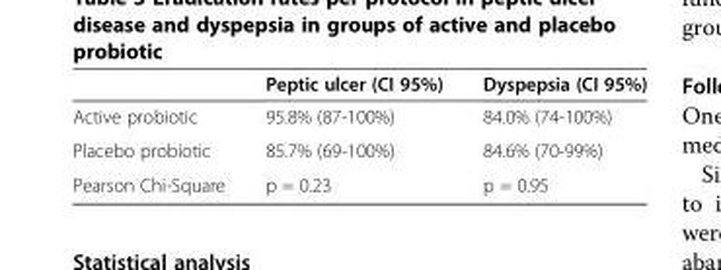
<table><thead><tr><td></td><td>Peptic ulcer (CI 95%)</td><td>Dyspepsia (CI 95%)</td></tr></thead><tbody><tr><td>Active probiotic</td><td>95.8% (87-100%)</td><td>84.0% (74-100%)</td></tr><tr><td>Placebo probiotic</td><td>85.7% (69-100%)</td><td>84.6% (70-99%)</td></tr><tr><td>Pearson Chi-Square</td><td>p = 0.23</td><td>p = 0.95</td></tr></tbody></table>